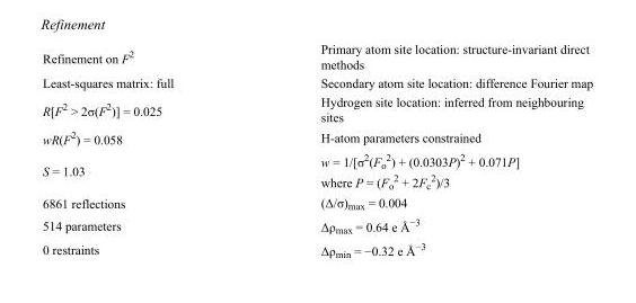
<table><tbody><tr><td>Refinement on F<sup>2</sup></td><td>Primary atom site location: structure-invariant direct methods</td></tr><tr><td>Least-squares matrix: full</td><td>Secondary atom site location: difference Fourier map</td></tr><tr><td>R[F<sup>2</sup> &gt; 2σ(F<sup>2</sup>)] = 0.025</td><td>Hydrogen site location: inferred from neighbouring sites</td></tr><tr><td>wR(F<sup>2</sup>) = 0.058</td><td>H-atom parameters constrained</td></tr><tr><td>S = 1.03</td><td>w = 1/[σ<sup>2</sup>(F<sub>o</sub> <sup>2</sup>) + (0.0303P)<sup>2</sup> + 0.071P] where P = (F<sub>o</sub> <sup>2</sup> + 2F<sub>c</sub> <sup>2</sup>)/3</td></tr><tr><td>6861 reflections</td><td>(Δ/σ)<sub>max</sub> = 0.004</td></tr><tr><td>514 parameters</td><td>Δρ<sub>max</sub> = 0.64 e Å<sup>−3</sup></td></tr><tr><td>0 restraints</td><td>Δρ<sub>min</sub> = −0.32 e Å<sup>−3</sup></td></tr></tbody></table>